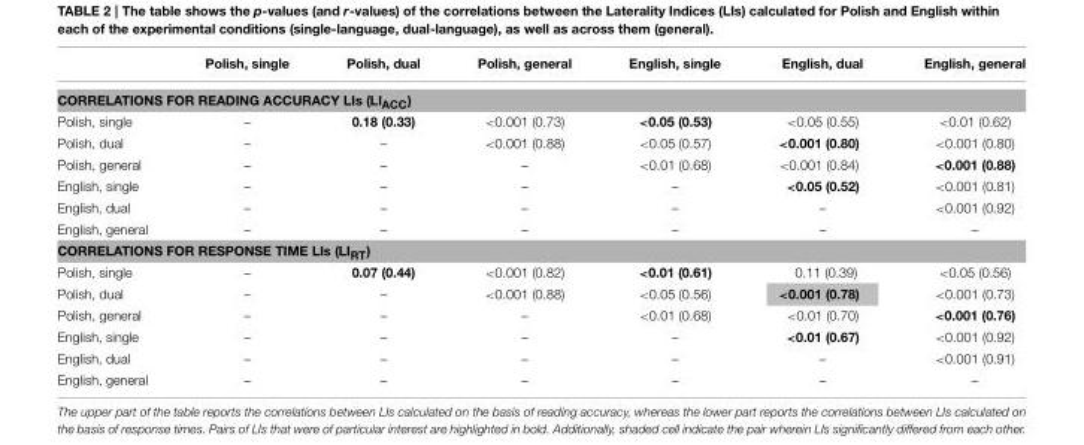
<table><thead><tr><td></td><td>Polish, single</td><td>Polish, dual</td><td>Polish, general</td><td>English, single</td><td>English, dual</td><td>English, general</td></tr></thead><tbody><tr><td colspan="7">CORRELATIONS FOR READING ACCURACY LIs (LI<sub>ACC</sub>)</td></tr><tr><td>Polish, single</td><td>–</td><td>0.18 (0.33)</td><td>&lt;0.001 (0.73)</td><td>&lt;0.05 (0.53)</td><td>&lt;0.05 (0.55)</td><td>&lt;0.01 (0.62)</td></tr><tr><td>Polish, dual</td><td>–</td><td>–</td><td>&lt;0.001 (0.88)</td><td>&lt;0.05 (0.57)</td><td>&lt;0.001 (0.80)</td><td>&lt;0.001 (0.80)</td></tr><tr><td>Polish, general</td><td>–</td><td>–</td><td>–</td><td>&lt;0.01 (0.68)</td><td>&lt;0.001 (0.84)</td><td>&lt;0.001 (0.88)</td></tr><tr><td>English, single</td><td>–</td><td>–</td><td>–</td><td>–</td><td>&lt;0.05 (0.52)</td><td>&lt;0.001 (0.81)</td></tr><tr><td>English, dual</td><td>–</td><td>–</td><td>–</td><td>–</td><td>–</td><td>&lt;0.001 (0.92)</td></tr><tr><td>English, general</td><td>–</td><td>–</td><td>–</td><td>–</td><td>–</td><td>–</td></tr><tr><td colspan="7">CORRELATIONS FOR RESPONSE TIME LIs (LI<sub>RT</sub>)</td></tr><tr><td>Polish, single</td><td>–</td><td>0.07 (0.44)</td><td>&lt;0.001 (0.82)</td><td>&lt;0.01 (0.61)</td><td>0.11 (0.39)</td><td>&lt;0.05 (0.56)</td></tr><tr><td>Polish, dual</td><td>–</td><td>–</td><td>&lt;0.001 (0.88)</td><td>&lt;0.05 (0.56)</td><td>&lt;0.001 (0.78)</td><td>&lt;0.001 (0.73)</td></tr><tr><td>Polish, general</td><td>–</td><td>–</td><td>–</td><td>&lt;0.01 (0.68)</td><td>&lt;0.01 (0.70)</td><td>&lt;0.001 (0.76)</td></tr><tr><td>English, single</td><td>–</td><td>–</td><td>–</td><td>–</td><td>&lt;0.01 (0.67)</td><td>&lt;0.001 (0.92)</td></tr><tr><td>English, dual</td><td>–</td><td>–</td><td>–</td><td>–</td><td>–</td><td>&lt;0.001 (0.91)</td></tr><tr><td>English, general</td><td>–</td><td>–</td><td>–</td><td>–</td><td>–</td><td>–</td></tr></tbody></table>